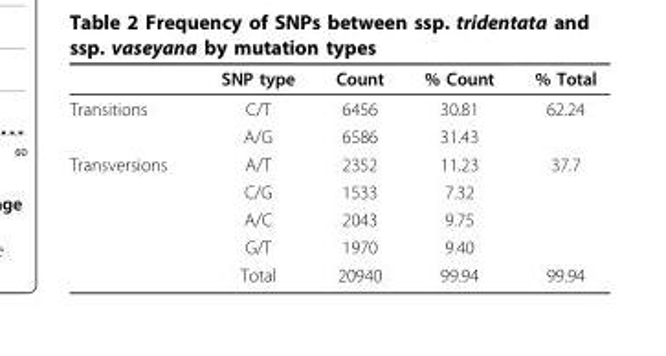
<table><thead><tr><td></td><td>SNP type</td><td>Count</td><td>% Count</td><td>% Total</td></tr></thead><tbody><tr><td rowspan="2">Transitions</td><td>C/T</td><td>6456</td><td>30.81</td><td>62.24</td></tr><tr><td>A/G</td><td>6586</td><td>31.43</td><td></td></tr><tr><td rowspan="5">Transversions</td><td>A/T</td><td>2352</td><td>11.23</td><td>37.7</td></tr><tr><td>C/G</td><td>1533</td><td>7.32</td><td></td></tr><tr><td>A/C</td><td>2043</td><td>9.75</td><td></td></tr><tr><td>G/T</td><td>1970</td><td>9.40</td><td></td></tr><tr><td>Total</td><td>20940</td><td>99.94</td><td>99.94</td></tr></tbody></table>